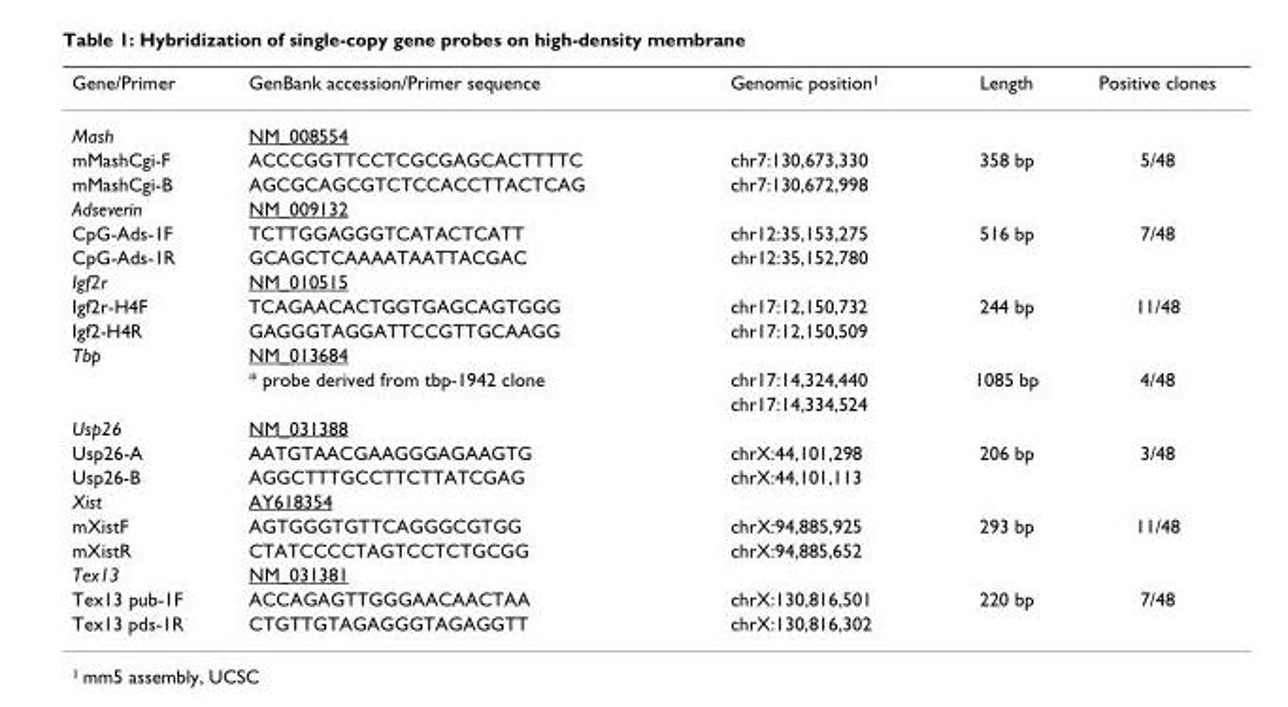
<table><thead><tr><td>Gene/Primer</td><td>GenBank accession/Primer sequence</td><td>Genomic position<sup>1</sup></td><td>Length</td><td>Positive clones</td></tr></thead><tbody><tr><td>Mash</td><td>NM_008554</td><td></td><td></td><td></td></tr><tr><td>mMashCgi-F</td><td>ACCCGGTTCCTCGCGAGCACTTTTC</td><td>chr7:130,673,330</td><td>358 bp</td><td>5/48</td></tr><tr><td>mMashCgi-B</td><td>AGCGCAGCGTCTCCACCTTACTCAG</td><td>chr7:130,672,998</td><td></td><td></td></tr><tr><td>Adseverin</td><td>NM_009132</td><td></td><td></td><td></td></tr><tr><td>CpG-Ads-1F</td><td>TCTTGGAGGGTCATACTCATT</td><td>chr12:35,153,275</td><td>516 bp</td><td>7/48</td></tr><tr><td>CpG-Ads-1R</td><td>GCAGCTCAAAATAATTACGAC</td><td>chr12:35,152,780</td><td></td><td></td></tr><tr><td>Igf2r</td><td>NM_010515</td><td></td><td></td><td></td></tr><tr><td>Igf2r-H4F</td><td>TCAGAACACTGGTGAGCAGTGGG</td><td>chr17:12,150,732</td><td>244 bp</td><td>11/48</td></tr><tr><td>Igf2-H4R</td><td>GAGGGTAGGATTCCGTTGCAAGG</td><td>chr17:12,150,509</td><td></td><td></td></tr><tr><td rowspan="3">Tbp</td><td>NM_013684</td><td></td><td></td><td></td></tr><tr><td>* probe derived from tbp-1942 clone</td><td>chr17:14,324,440</td><td>1085 bp</td><td>4/48</td></tr><tr><td></td><td>chr17:14,334,524</td><td></td><td></td></tr><tr><td>Usp26</td><td>NM_031388</td><td></td><td></td><td></td></tr><tr><td>Usp26-A</td><td>AATGTAACGAAGGGAGAAGTG</td><td>chrX:44,101,298</td><td>206 bp</td><td>3/48</td></tr><tr><td>Usp26-B</td><td>AGGCTTTGCCTTCTTATCGAG</td><td>chrX:44,101,113</td><td></td><td></td></tr><tr><td>Xist</td><td>AY618354</td><td></td><td></td><td></td></tr><tr><td>mXistF</td><td>AGTGGGTGTTCAGGGCGTGG</td><td>chrX:94,885,925</td><td>293 bp</td><td>11/48</td></tr><tr><td>mXistR</td><td>CTATCCCCTAGTCCTCTGCGG</td><td>chrX:94,885,652</td><td></td><td></td></tr><tr><td>Tex13</td><td>NM_031381</td><td></td><td></td><td></td></tr><tr><td>Tex13 pub-1F</td><td>ACCAGAGTTGGGAACAACTAA</td><td>chrX:130,816,501</td><td>220 bp</td><td>7/48</td></tr><tr><td>Tex13 pds-1R</td><td>CTGTTGTAGAGGGTAGAGGTT</td><td>chrX:130,816,302</td><td></td><td></td></tr></tbody></table>